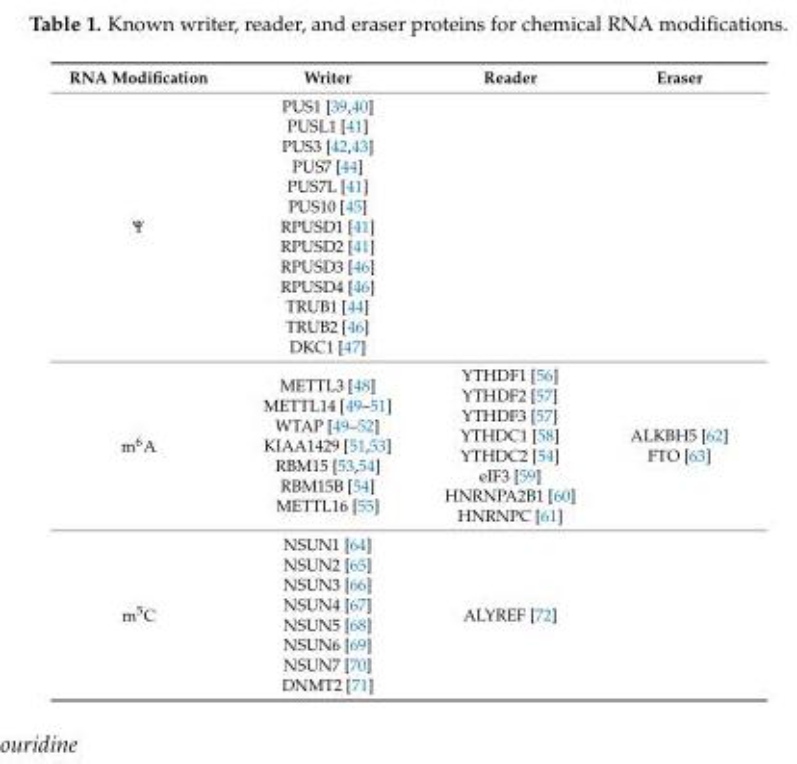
<table><thead><tr><td>RNA Modification</td><td>Writer</td><td>Reader</td><td>Eraser</td></tr></thead><tbody><tr><td>Ψ</td><td>PUS1 [39,40] PUSL1 [41] PUS3 [42,43] PUS7 [44] PUS7L [41] PUS10 [45] RPUSD1 [41] RPUSD2 [41] RPUSD3 [46] RPUSD4 [46] TRUB1 [44] TRUB2 [46] DKC1 [47]</td><td></td><td></td></tr><tr><td>m<sup>6</sup>A</td><td>METTL3 [48] METTL14 [49–51] WTAP [49–52] KIAA1429 [51,53] RBM15 [53,54] RBM15B [54] METTL16 [55]</td><td>YTHDF1 [56] YTHDF2 [57] YTHDF3 [57] YTHDC1 [58] YTHDC2 [54] eIF3 [59] HNRNPA2B1 [60] HNRNPC [61]</td><td>ALKBH5 [62] FTO [63]</td></tr><tr><td>m<sup>5</sup>C</td><td>NSUN1 [64] NSUN2 [65] NSUN3 [66] NSUN4 [67] NSUN5 [68] NSUN6 [69] NSUN7 [70] DNMT2 [71]</td><td>ALYREF [72]</td><td></td></tr></tbody></table>